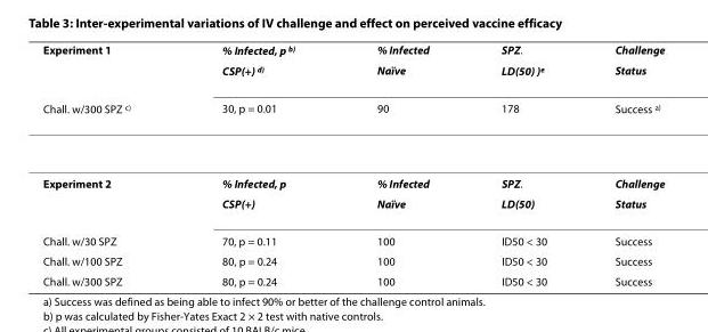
<table><thead><tr><td rowspan="3">Experiment 1 Chall. w/300 SPZ c)</td><td rowspan="3">% Infected, p b) CSP(+) d) 30, p = 0.01</td><td rowspan="3">% Infected Naïve 90</td><td rowspan="3">SPZ. LD(50) )e 178</td><td rowspan="3">Challenge Status Success a)</td></tr><tr></tr><tr></tr></thead><tbody><tr><td rowspan="2">Experiment 2</td><td>% Infected, p</td><td>% Infected</td><td>SPZ.</td><td>Challenge</td></tr><tr><td>CSP(+)</td><td>Naïve</td><td>LD(50)</td><td>Status</td></tr><tr><td>Chall. w/30 SPZ</td><td>70, p = 0.11</td><td>100</td><td>ID50 &lt; 30</td><td>Success</td></tr><tr><td>Chall. w/100 SPZ</td><td>80, p = 0.24</td><td>100</td><td>ID50 &lt; 30</td><td>Success</td></tr><tr><td>Chall. w/300 SPZ</td><td>80, p = 0.24</td><td>100</td><td>ID50 &lt; 30</td><td>Success</td></tr></tbody></table>